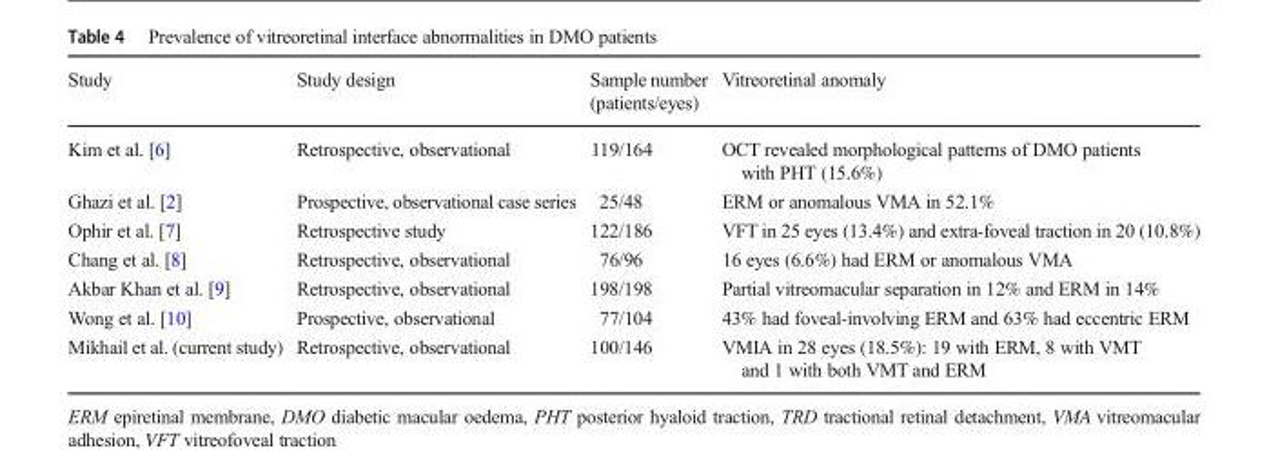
<table><thead><tr><td>Study</td><td>Study design</td><td>Sample number (patients/eyes)</td><td>Vitreoretinal anomaly</td></tr></thead><tbody><tr><td>Kim et al. [6]</td><td>Retrospective, observational</td><td>119/164</td><td>OCT revealed morphological patterns of DMO patients with PHT (15.6%)</td></tr><tr><td>Ghazi et al. [2]</td><td>Prospective, observational case series</td><td>25/48</td><td>ERM or anomalous VMA in 52.1%</td></tr><tr><td>Ophir et al. [7]</td><td>Retrospective study</td><td>122/186</td><td>VFT in 25 eyes (13.4%) and extra-foveal traction in 20 (10.8%)</td></tr><tr><td>Chang et al. [8]</td><td>Retrospective, observational</td><td>76/96</td><td>16 eyes (6.6%) had ERM or anomalous VMA</td></tr><tr><td>Akbar Khan et al. [9]</td><td>Retrospective, observational</td><td>198/198</td><td>Partial vitreomacular separation in 12% and ERM in 14%</td></tr><tr><td>Wong et al. [10]</td><td>Prospective, observational</td><td>77/104</td><td>43% had foveal-involving ERM and 63% had eccentric ERM</td></tr><tr><td>Mikhail et al. (current study)</td><td>Retrospective, observational</td><td>100/146</td><td>VMIA in 28 eyes (18.5%): 19 with ERM, 8 with VMT and 1 with both VMT and ERM</td></tr></tbody></table>